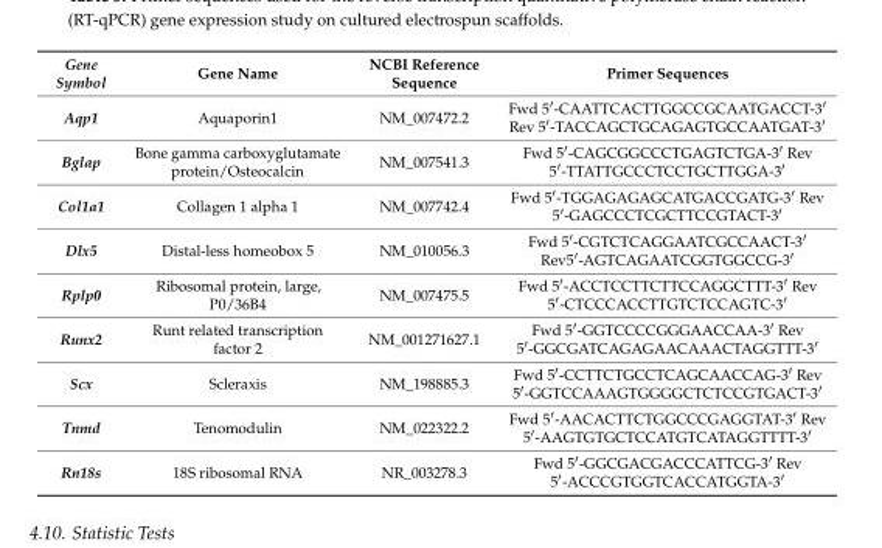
<table><thead><tr><td>Gene Symbol</td><td>Gene Name</td><td>NCBI Reference Sequence</td><td>Primer Sequences</td></tr></thead><tbody><tr><td>Aqp1</td><td>Aquaporin1</td><td>NM_007472.2</td><td>Fwd 5′-CAATTCACTTGGCCGCAATGACCT-3′ Rev 5′-TACCAGCTGCAGAGTGCCAATGAT-3′</td></tr><tr><td>Bglap</td><td>Bone gamma carboxyglutamate protein/Osteocalcin</td><td>NM_007541.3</td><td>Fwd 5′-CAGCGGCCCTGAGTCTGA-3′ Rev 5′-TTATTGCCCTCCTGCTTGGA-3′</td></tr><tr><td>Col1a1</td><td>Collagen 1 alpha 1</td><td>NM_007742.4</td><td>Fwd 5′-TGGAGAGAGCATGACCGATG-3′ Rev 5′-GAGCCCTCGCTTCCGTACT-3′</td></tr><tr><td>Dlx5</td><td>Distal-less homeobox 5</td><td>NM_010056.3</td><td>Fwd 5′-CGTCTCAGGAATCGCCAACT-3′ Rev5′-AGTCAGAATCGGTGGCCG-3′</td></tr><tr><td>Rplp0</td><td>Ribosomal protein, large, P0/36B4</td><td>NM_007475.5</td><td>Fwd 5′-ACCTCCTTCTTCCAGGCTTT-3′ Rev 5′-CTCCCACCTTGTCTCCAGTC-3′</td></tr><tr><td>Runx2</td><td>Runt related transcription factor 2</td><td>NM_001271627.1</td><td>Fwd 5′-GGTCCCCGGGAACCAA-3′ Rev 5′-GGCGATCAGAGAACAAACTAGGTTT-3′</td></tr><tr><td>Scx</td><td>Scleraxis</td><td>NM_198885.3</td><td>Fwd 5′-CCTTCTGCCTCAGCAACCAG-3′ Rev 5′-GGTCCAAAGTGGGGCTCTCCGTGACT-3′</td></tr><tr><td>Tnmd</td><td>Tenomodulin</td><td>NM_022322.2</td><td>Fwd 5′-AACACTTCTGGCCCGAGGTAT-3′ Rev 5′-AAGTGTGCTCCATGTCATAGGTTTT-3′</td></tr><tr><td>Rn18s</td><td>18S ribosomal RNA</td><td>NR_003278.3</td><td>Fwd 5′-GGCGACGACCCATTCG-3′ Rev 5′-ACCCGTGGTCACCATGGTA-3′</td></tr></tbody></table>